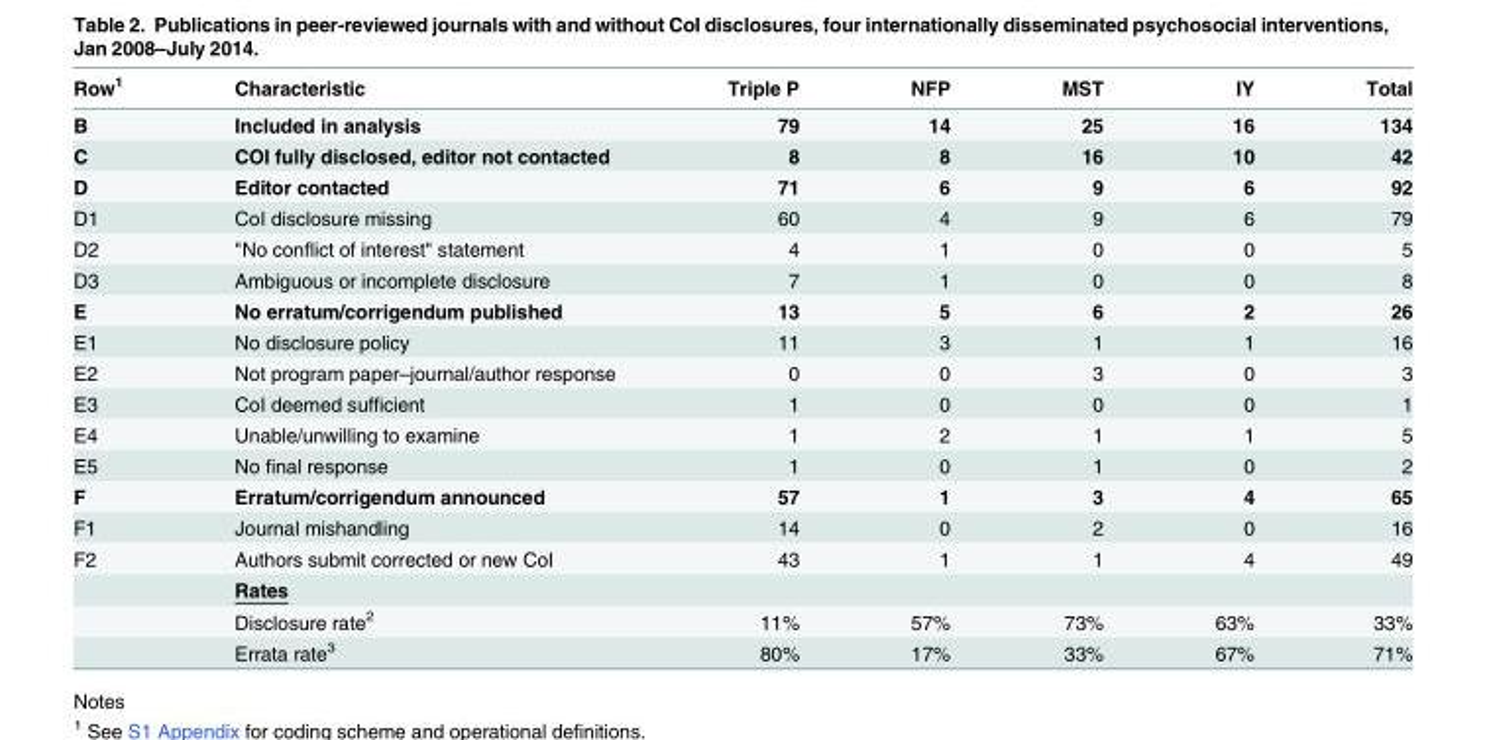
<table><thead><tr><td>Row<sup>1</sup></td><td>Characteristic</td><td>Triple P</td><td>NFP</td><td>MST</td><td>IY</td><td>Total</td></tr></thead><tbody><tr><td>B</td><td>Included in analysis</td><td>79</td><td>14</td><td>25</td><td>16</td><td>134</td></tr><tr><td>C</td><td>COI fully disclosed, editor not contacted</td><td>8</td><td>8</td><td>16</td><td>10</td><td>42</td></tr><tr><td>D</td><td>Editor contacted</td><td>71</td><td>6</td><td>9</td><td>6</td><td>92</td></tr><tr><td>D1</td><td>CoI disclosure missing</td><td>60</td><td>4</td><td>9</td><td>6</td><td>79</td></tr><tr><td>D2</td><td>&quot;No conflict of interest&quot; statement</td><td>4</td><td>1</td><td>0</td><td>0</td><td>5</td></tr><tr><td>D3</td><td>Ambiguous or incomplete disclosure</td><td>7</td><td>1</td><td>0</td><td>0</td><td>8</td></tr><tr><td>E</td><td>No erratum/corrigendum published</td><td>13</td><td>5</td><td>6</td><td>2</td><td>26</td></tr><tr><td>E1</td><td>No disclosure policy</td><td>11</td><td>3</td><td>1</td><td>1</td><td>16</td></tr><tr><td>E2</td><td>Not program paper–journal/author response</td><td>0</td><td>0</td><td>3</td><td>0</td><td>3</td></tr><tr><td>E3</td><td>CoI deemed sufficient</td><td>1</td><td>0</td><td>0</td><td>0</td><td>1</td></tr><tr><td>E4</td><td>Unable/unwilling to examine</td><td>1</td><td>2</td><td>1</td><td>1</td><td>5</td></tr><tr><td>E5</td><td>No final response</td><td>1</td><td>0</td><td>1</td><td>0</td><td>2</td></tr><tr><td>F</td><td>Erratum/corrigendum announced</td><td>57</td><td>1</td><td>3</td><td>4</td><td>65</td></tr><tr><td>F1</td><td>Journal mishandling</td><td>14</td><td>0</td><td>2</td><td>0</td><td>16</td></tr><tr><td rowspan="4">F2</td><td>Authors submit corrected or new CoI</td><td>43</td><td>1</td><td>1</td><td>4</td><td>49</td></tr><tr><td>Rates</td><td></td><td></td><td></td><td></td><td></td></tr><tr><td>Disclosure rate<sup>2</sup></td><td>11%</td><td>57%</td><td>73%</td><td>63%</td><td>33%</td></tr><tr><td>Errata rate<sup>3</sup></td><td>80%</td><td>17%</td><td>33%</td><td>67%</td><td>71%</td></tr></tbody></table>